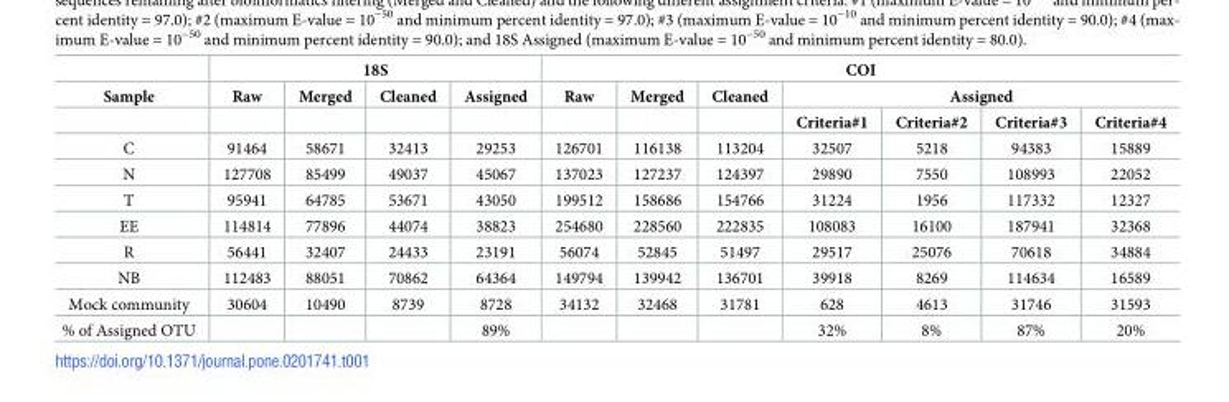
<table><thead><tr><td rowspan="3">Sample</td><td colspan="4">18S</td><td colspan="7">COI</td></tr><tr><td rowspan="2">Raw</td><td rowspan="2">Merged</td><td rowspan="2">Cleaned</td><td rowspan="2">Assigned</td><td rowspan="2">Raw</td><td rowspan="2">Merged</td><td rowspan="2">Cleaned</td><td colspan="4">Assigned</td></tr><tr><td>Criteria#1</td><td>Criteria#2</td><td>Criteria#3</td><td>Criteria#4</td></tr></thead><tbody><tr><td>C</td><td>91464</td><td>58671</td><td>32413</td><td>29253</td><td>126701</td><td>116138</td><td>113204</td><td>32507</td><td>5218</td><td>94383</td><td>15889</td></tr><tr><td>N</td><td>127708</td><td>85499</td><td>49037</td><td>45067</td><td>137023</td><td>127237</td><td>124397</td><td>29890</td><td>7550</td><td>108993</td><td>22052</td></tr><tr><td>T</td><td>95941</td><td>64785</td><td>53671</td><td>43050</td><td>199512</td><td>158686</td><td>154766</td><td>31224</td><td>1956</td><td>117332</td><td>12327</td></tr><tr><td>EE</td><td>114814</td><td>77896</td><td>44074</td><td>38823</td><td>254680</td><td>228560</td><td>222835</td><td>108083</td><td>16100</td><td>187941</td><td>32368</td></tr><tr><td>R</td><td>56441</td><td>32407</td><td>24433</td><td>23191</td><td>56074</td><td>52845</td><td>51497</td><td>29517</td><td>25076</td><td>70618</td><td>34884</td></tr><tr><td>NB</td><td>112483</td><td>88051</td><td>70862</td><td>64364</td><td>149794</td><td>139942</td><td>136701</td><td>39918</td><td>8269</td><td>114634</td><td>16589</td></tr><tr><td>Mock community</td><td>30604</td><td>10490</td><td>8739</td><td>8728</td><td>34132</td><td>32468</td><td>31781</td><td>628</td><td>4613</td><td>31746</td><td>31593</td></tr><tr><td>% of Assigned OTU</td><td></td><td></td><td></td><td>89%</td><td></td><td></td><td></td><td>32%</td><td>8%</td><td>87%</td><td>20%</td></tr></tbody></table>